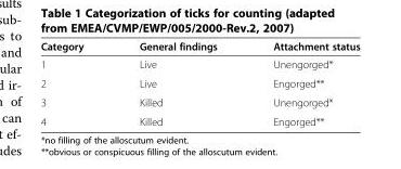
<table><thead><tr><td>Category</td><td>General findings</td><td>Attachment status</td></tr></thead><tbody><tr><td>1</td><td>Live</td><td>Unengorged*</td></tr><tr><td>2</td><td>Live</td><td>Engorged**</td></tr><tr><td>3</td><td>Killed</td><td>Unengorged*</td></tr><tr><td>4</td><td>Killed</td><td>Engorged**</td></tr></tbody></table>